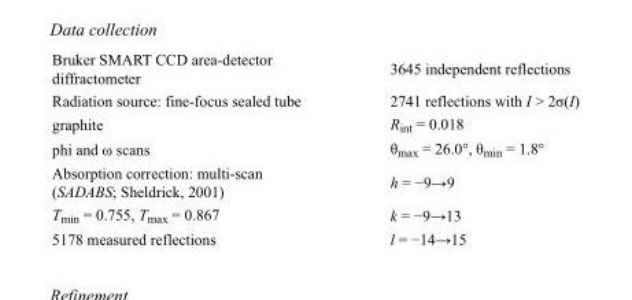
<table><tbody><tr><td>Bruker SMART CCD area-detector diffractometer</td><td>3645 independent reflections</td></tr><tr><td>Radiation source: fine-focus sealed tube</td><td>2741 reflections with I &gt; 2σ(I)</td></tr><tr><td>graphite</td><td>R<sub>int</sub> = 0.018</td></tr><tr><td>phi and ω scans</td><td>θ<sub>max</sub> = 26.0°, θ<sub>min</sub> = 1.8°</td></tr><tr><td>Absorption correction: multi-scan (SADABS; Sheldrick, 2001)</td><td>h = −9→9</td></tr><tr><td>T<sub>min</sub> = 0.755, T<sub>max</sub> = 0.867</td><td>k = −9→13</td></tr><tr><td>5178 measured reflections</td><td>l = −14→15</td></tr></tbody></table>